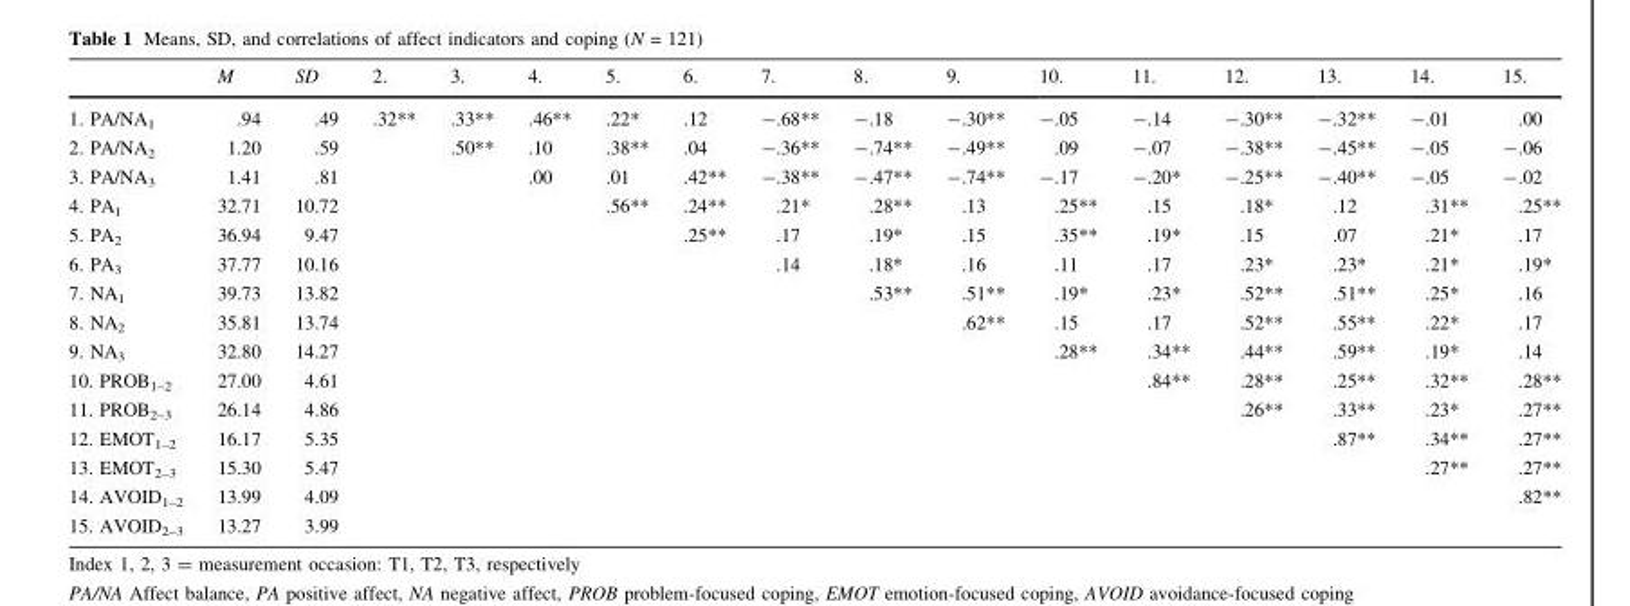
<table><thead><tr><td></td><td>M</td><td>SD</td><td>2.</td><td>3.</td><td>4.</td><td>5.</td><td>6.</td><td>7.</td><td>8.</td><td>9.</td><td>10.</td><td>11.</td><td>12.</td><td>13.</td><td>14.</td><td>15.</td></tr></thead><tbody><tr><td>1. PA/NA<sub>1</sub></td><td>.94</td><td>.49</td><td>.32**</td><td>.33**</td><td>.46**</td><td>.22*</td><td>.12</td><td>-.68**</td><td>-.18</td><td>-.30**</td><td>-.05</td><td>-.14</td><td>-.30**</td><td>-.32**</td><td>-.01</td><td>.00</td></tr><tr><td>2. PA/NA<sub>2</sub></td><td>1.20</td><td>.59</td><td></td><td>.50**</td><td>.10</td><td>.38**</td><td>.04</td><td>-.36**</td><td>-.74**</td><td>-.49**</td><td>.09</td><td>-.07</td><td>-.38**</td><td>-.45**</td><td>-.05</td><td>-.06</td></tr><tr><td>3. PA/NA<sub>3</sub></td><td>1.41</td><td>.81</td><td></td><td></td><td>.00</td><td>.01</td><td>.42**</td><td>-.38**</td><td>-.47**</td><td>-.74**</td><td>-.17</td><td>-.20*</td><td>-.25**</td><td>-.40**</td><td>-.05</td><td>-.02</td></tr><tr><td>4. PA<sub>1</sub></td><td>32.71</td><td>10.72</td><td></td><td></td><td></td><td>.56**</td><td>.24**</td><td>.21*</td><td>.28**</td><td>.13</td><td>.25**</td><td>.15</td><td>.18*</td><td>.12</td><td>.31**</td><td>.25**</td></tr><tr><td>5. PA<sub>2</sub></td><td>36.94</td><td>9.47</td><td></td><td></td><td></td><td></td><td>.25**</td><td>.17</td><td>.19*</td><td>.15</td><td>.35**</td><td>.19*</td><td>.15</td><td>.07</td><td>.21*</td><td>.17</td></tr><tr><td>6. PA<sub>3</sub></td><td>37.77</td><td>10.16</td><td></td><td></td><td></td><td></td><td></td><td>.14</td><td>.18*</td><td>.16</td><td>.11</td><td>.17</td><td>.23*</td><td>.23*</td><td>.21*</td><td>.19*</td></tr><tr><td>7. NA<sub>1</sub></td><td>39.73</td><td>13.82</td><td></td><td></td><td></td><td></td><td></td><td></td><td>.53**</td><td>.51**</td><td>.19*</td><td>.23*</td><td>.52**</td><td>.51**</td><td>.25*</td><td>.16</td></tr><tr><td>8. NA<sub>2</sub></td><td>35.81</td><td>13.74</td><td></td><td></td><td></td><td></td><td></td><td></td><td></td><td>.62**</td><td>.15</td><td>.17</td><td>.52**</td><td>.55**</td><td>.22*</td><td>.17</td></tr><tr><td>9. NA<sub>3</sub></td><td>32.80</td><td>14.27</td><td></td><td></td><td></td><td></td><td></td><td></td><td></td><td></td><td>.28**</td><td>.34**</td><td>.44**</td><td>.59**</td><td>.19*</td><td>.14</td></tr><tr><td>10. PROB<sub>1–2</sub></td><td>27.00</td><td>4.61</td><td></td><td></td><td></td><td></td><td></td><td></td><td></td><td></td><td></td><td>.84**</td><td>.28**</td><td>.25**</td><td>.32**</td><td>.28**</td></tr><tr><td>11. PROB<sub>2–3</sub></td><td>26.14</td><td>4.86</td><td></td><td></td><td></td><td></td><td></td><td></td><td></td><td></td><td></td><td></td><td>.26**</td><td>.33**</td><td>.23*</td><td>.27**</td></tr><tr><td>12. EMOT<sub>1–2</sub></td><td>16.17</td><td>5.35</td><td></td><td></td><td></td><td></td><td></td><td></td><td></td><td></td><td></td><td></td><td></td><td>.87**</td><td>.34**</td><td>.27**</td></tr><tr><td>13. EMOT<sub>2–3</sub></td><td>15.30</td><td>5.47</td><td></td><td></td><td></td><td></td><td></td><td></td><td></td><td></td><td></td><td></td><td></td><td></td><td>.27**</td><td>.27**</td></tr><tr><td>14. AVOID<sub>1–2</sub></td><td>13.99</td><td>4.09</td><td></td><td></td><td></td><td></td><td></td><td></td><td></td><td></td><td></td><td></td><td></td><td></td><td></td><td>.82**</td></tr><tr><td>15. AVOID<sub>2–3</sub></td><td>13.27</td><td>3.99</td><td></td><td></td><td></td><td></td><td></td><td></td><td></td><td></td><td></td><td></td><td></td><td></td><td></td><td></td></tr></tbody></table>